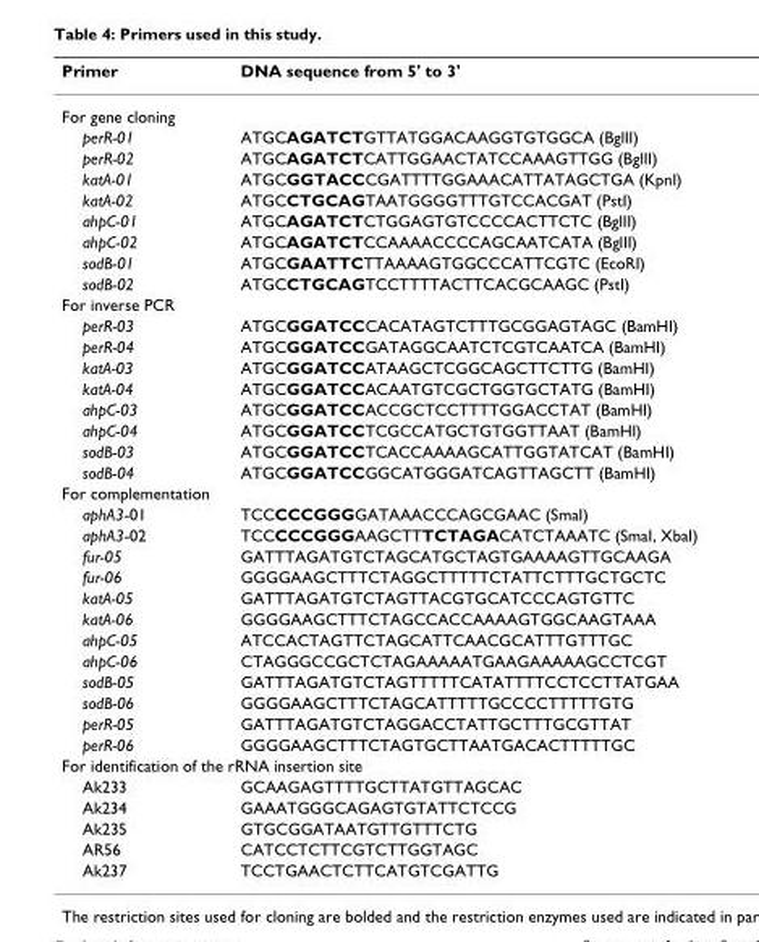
<table><thead><tr><td>Primer</td><td>DNA sequence from 5&#x27; to 3&#x27;</td></tr></thead><tbody><tr><td colspan="2">For gene cloning</td></tr><tr><td>perR-01</td><td>ATGCAGATCTGTTATGGACAAGGTGTGGCA (BglII)</td></tr><tr><td>perR-02</td><td>ATGCAGATCTCATTGGAACTATCCAAAGTTGG (BglII)</td></tr><tr><td>katA-01</td><td>ATGCGGTACCCGATTTTGGAAACATTATAGCTGA (KpnI)</td></tr><tr><td>katA-02</td><td>ATGCCTGCAGTAATGGGGTTTGTCCACGAT (PstI)</td></tr><tr><td>ahpC-01</td><td>ATGCAGATCTCTGGAGTGTCCCCACTTCTC (BglII)</td></tr><tr><td>ahpC-02</td><td>ATGCAGATCTCCAAAACCCCAGCAATCATA (BglII)</td></tr><tr><td>sodB-01</td><td>ATGCGAATTCTTAAAAGTGGCCCATTCGTC (EcoRI)</td></tr><tr><td>sodB-02</td><td>ATGCCTGCAGTCCTTTTACTTCACGCAAGC (PstI)</td></tr><tr><td colspan="2">For inverse PCR</td></tr><tr><td>perR-03</td><td>ATGCGGATCCCACATAGTCTTTGCGGAGTAGC (BamHI)</td></tr><tr><td>perR-04</td><td>ATGCGGATCCGATAGGCAATCTCGTCAATCA (BamHI)</td></tr><tr><td>katA-03</td><td>ATGCGGATCCATAAGCTCGGCAGCTTCTTG (BamHI)</td></tr><tr><td>katA-04</td><td>ATGCGGATCCACAATGTCGCTGGTGCTATG (BamHI)</td></tr><tr><td>ahpC-03</td><td>ATGCGGATCCACCGCTCCTTTTGGACCTAT (BamHI)</td></tr><tr><td>ahpC-04</td><td>ATGCGGATCCTCGCCATGCTGTGGTTAAT (BamHI)</td></tr><tr><td>sodB-03</td><td>ATGCGGATCCTCACCAAAAGCATTGGTATCAT (BamHI)</td></tr><tr><td>sodB-04</td><td>ATGCGGATCCGGCATGGGATCAGTTAGCTT (BamHI)</td></tr><tr><td colspan="2">For complementation</td></tr><tr><td>aphA3-01</td><td>TCCCCCGGGGATAAACCCAGCGAAC (SmaI)</td></tr><tr><td>aphA3-02</td><td>TCCCCCGGGAAGCTTTCTAGACATCTAAATC (SmaI, XbaI)</td></tr><tr><td>fur-05</td><td>GATTTAGATGTCTAGCATGCTAGTGAAAAGTTGCAAGA</td></tr><tr><td>fur-06</td><td>GGGGAAGCTTTCTAGGCTTTTTCTATTCTTTGCTGCTC</td></tr><tr><td>katA-05</td><td>GATTTAGATGTCTAGTTACGTGCATCCCAGTGTTC</td></tr><tr><td>katA-06</td><td>GGGGAAGCTTTCTAGCCACCAAAAGTGGCAAGTAAA</td></tr><tr><td>ahpC-05</td><td>ATCCACTAGTTCTAGCATTCAACGCATTTGTTTGC</td></tr><tr><td>ahpC-06</td><td>CTAGGGCCGCTCTAGAAAAATGAAGAAAAAGCCTCGT</td></tr><tr><td>sodB-05</td><td>GATTTAGATGTCTAGTTTTTCATATTTTCCTCCTTATGAA</td></tr><tr><td>sodB-06</td><td>GGGGAAGCTTTCTAGCATTTTTGCCCCTTTTTGTG</td></tr><tr><td>perR-05</td><td>GATTTAGATGTCTAGGACCTATTGCTTTGCGTTAT</td></tr><tr><td>perR-06</td><td>GGGGAAGCTTTCTAGTGCTTAATGACACTTTTTGC</td></tr><tr><td colspan="2">For identification of the rRNA insertion site</td></tr><tr><td>Ak233</td><td>GCAAGAGTTTTGCTTATGTTAGCAC</td></tr><tr><td>Ak234</td><td>GAAATGGGCAGAGTGTATTCTCCG</td></tr><tr><td>Ak235</td><td>GTGCGGATAATGTTGTTTCTG</td></tr><tr><td>AR56</td><td>CATCCTCTTCGTCTTGGTAGC</td></tr><tr><td>Ak237</td><td>TCCTGAACTCTTCATGTCGATTG</td></tr></tbody></table>